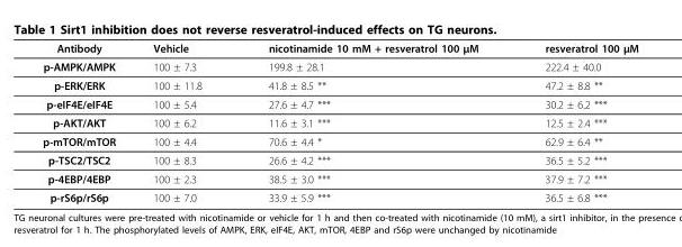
<table><thead><tr><td>Antibody</td><td>Vehicle</td><td>nicotinamide 10 mM + resveratrol 100 μM</td><td>resveratrol 100 μM</td></tr></thead><tbody><tr><td>p-AMPK/AMPK</td><td>100 ± 7.3</td><td>199.8 ± 28.1</td><td>222.4 ± 40.0</td></tr><tr><td>p-ERK/ERK</td><td>100 ± 11.8</td><td>41.8 ± 8.5 **</td><td>47.2 ± 8.8 **</td></tr><tr><td>p-eIF4E/eIF4E</td><td>100 ± 5.4</td><td>27.6 ± 4.7 ***</td><td>30.2 ± 6.2 ***</td></tr><tr><td>p-AKT/AKT</td><td>100 ± 6.2</td><td>11.6 ± 3.1 ***</td><td>12.5 ± 2.4 ***</td></tr><tr><td>p-mTOR/mTOR</td><td>100 ± 4.4</td><td>70.6 ± 4.4 *</td><td>62.9 ± 6.4 **</td></tr><tr><td>p-TSC2/TSC2</td><td>100 ± 8.3</td><td>26.6 ± 4.2 ***</td><td>36.5 ± 5.2 ***</td></tr><tr><td>p-4EBP/4EBP</td><td>100 ± 2.3</td><td>38.5 ± 3.0 ***</td><td>37.9 ± 7.2 ***</td></tr><tr><td>p-rS6p/rS6p</td><td>100 ± 7.0</td><td>33.9 ± 5.9 ***</td><td>36.5 ± 6.8 ***</td></tr></tbody></table>